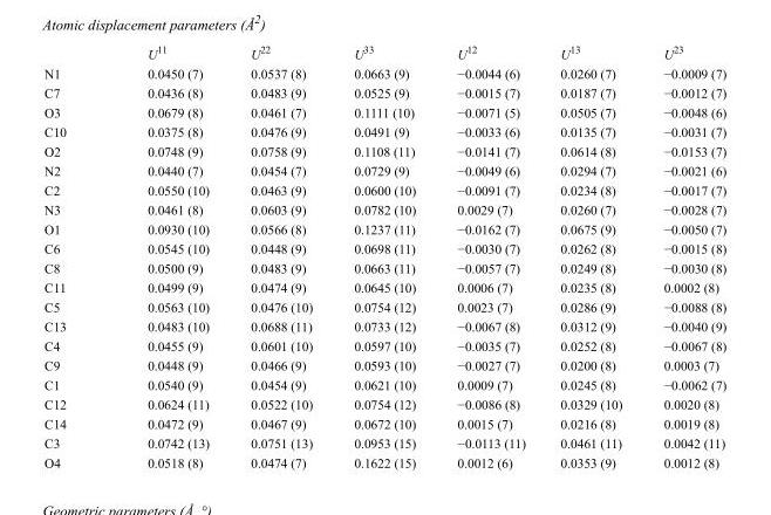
<table><thead><tr><td></td><td>U<sup>11</sup></td><td>U<sup>22</sup></td><td>U<sup>33</sup></td><td>U<sup>12</sup></td><td>U<sup>13</sup></td><td>U<sup>23</sup></td></tr></thead><tbody><tr><td>N1</td><td>0.0450 (7)</td><td>0.0537 (8)</td><td>0.0663 (9)</td><td>−0.0044 (6)</td><td>0.0260 (7)</td><td>−0.0009 (7)</td></tr><tr><td>C7</td><td>0.0436 (8)</td><td>0.0483 (9)</td><td>0.0525 (9)</td><td>−0.0015 (7)</td><td>0.0187 (7)</td><td>−0.0012 (7)</td></tr><tr><td>O3</td><td>0.0679 (8)</td><td>0.0461 (7)</td><td>0.1111 (10)</td><td>−0.0071 (5)</td><td>0.0505 (7)</td><td>−0.0048 (6)</td></tr><tr><td>C10</td><td>0.0375 (8)</td><td>0.0476 (9)</td><td>0.0491 (9)</td><td>−0.0033 (6)</td><td>0.0135 (7)</td><td>−0.0031 (7)</td></tr><tr><td>O2</td><td>0.0748 (9)</td><td>0.0758 (9)</td><td>0.1108 (11)</td><td>−0.0141 (7)</td><td>0.0614 (8)</td><td>−0.0153 (7)</td></tr><tr><td>N2</td><td>0.0440 (7)</td><td>0.0454 (7)</td><td>0.0729 (9)</td><td>−0.0049 (6)</td><td>0.0294 (7)</td><td>−0.0021 (6)</td></tr><tr><td>C2</td><td>0.0550 (10)</td><td>0.0463 (9)</td><td>0.0600 (10)</td><td>−0.0091 (7)</td><td>0.0234 (8)</td><td>−0.0017 (7)</td></tr><tr><td>N3</td><td>0.0461 (8)</td><td>0.0603 (9)</td><td>0.0782 (10)</td><td>0.0029 (7)</td><td>0.0260 (7)</td><td>−0.0028 (7)</td></tr><tr><td>O1</td><td>0.0930 (10)</td><td>0.0566 (8)</td><td>0.1237 (11)</td><td>−0.0162 (7)</td><td>0.0675 (9)</td><td>−0.0050 (7)</td></tr><tr><td>C6</td><td>0.0545 (10)</td><td>0.0448 (9)</td><td>0.0698 (11)</td><td>−0.0030 (7)</td><td>0.0262 (8)</td><td>−0.0015 (8)</td></tr><tr><td>C8</td><td>0.0500 (9)</td><td>0.0483 (9)</td><td>0.0663 (11)</td><td>−0.0057 (7)</td><td>0.0249 (8)</td><td>−0.0030 (8)</td></tr><tr><td>C11</td><td>0.0499 (9)</td><td>0.0474 (9)</td><td>0.0645 (10)</td><td>0.0006 (7)</td><td>0.0235 (8)</td><td>0.0002 (8)</td></tr><tr><td>C5</td><td>0.0563 (10)</td><td>0.0476 (10)</td><td>0.0754 (12)</td><td>0.0023 (7)</td><td>0.0286 (9)</td><td>−0.0088 (8)</td></tr><tr><td>C13</td><td>0.0483 (10)</td><td>0.0688 (11)</td><td>0.0733 (12)</td><td>−0.0067 (8)</td><td>0.0312 (9)</td><td>−0.0040 (9)</td></tr><tr><td>C4</td><td>0.0455 (9)</td><td>0.0601 (10)</td><td>0.0597 (10)</td><td>−0.0035 (7)</td><td>0.0252 (8)</td><td>−0.0067 (8)</td></tr><tr><td>C9</td><td>0.0448 (9)</td><td>0.0466 (9)</td><td>0.0593 (10)</td><td>−0.0027 (7)</td><td>0.0200 (8)</td><td>0.0003 (7)</td></tr><tr><td>C1</td><td>0.0540 (9)</td><td>0.0454 (9)</td><td>0.0621 (10)</td><td>0.0009 (7)</td><td>0.0245 (8)</td><td>−0.0062 (7)</td></tr><tr><td>C12</td><td>0.0624 (11)</td><td>0.0522 (10)</td><td>0.0754 (12)</td><td>−0.0086 (8)</td><td>0.0329 (10)</td><td>0.0020 (8)</td></tr><tr><td>C14</td><td>0.0472 (9)</td><td>0.0467 (9)</td><td>0.0672 (10)</td><td>0.0015 (7)</td><td>0.0216 (8)</td><td>0.0019 (8)</td></tr><tr><td>C3</td><td>0.0742 (13)</td><td>0.0751 (13)</td><td>0.0953 (15)</td><td>−0.0113 (11)</td><td>0.0461 (11)</td><td>0.0042 (11)</td></tr><tr><td>O4</td><td>0.0518 (8)</td><td>0.0474 (7)</td><td>0.1622 (15)</td><td>0.0012 (6)</td><td>0.0353 (9)</td><td>0.0012 (8)</td></tr></tbody></table>